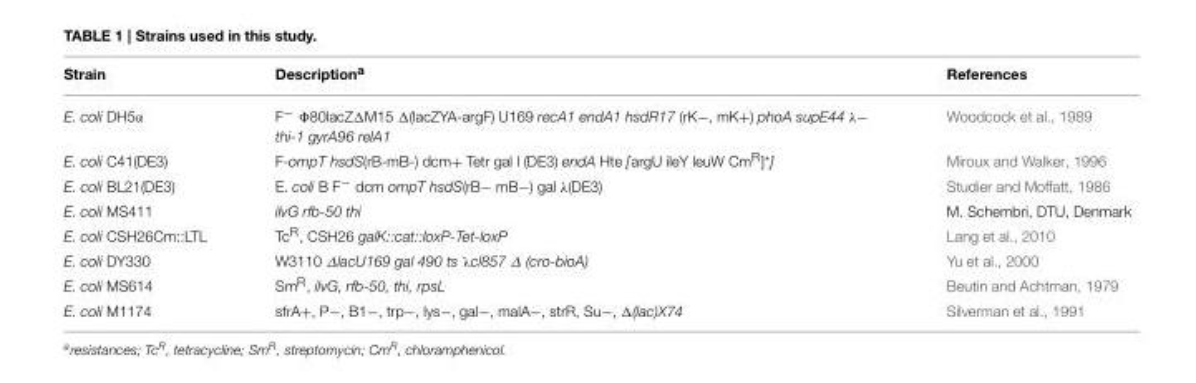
<table><thead><tr><td>Strain</td><td>Description<sup>a</sup></td><td>References</td></tr></thead><tbody><tr><td>E. coli DH5α</td><td>F− Φ80lacZΔM15 Δ(lacZYA-argF) U169 recA1 endA1 hsdR17 (rK−, mK+) phoA supE44 λ− thi-1 gyrA96 relA1</td><td>Woodcock et al., 1989</td></tr><tr><td>E. coli C41(DE3)</td><td>F-ompT hsdS(rB-mB-) dcm+ Tetr gal l (DE3) endA Hte [argU ileY leuW Cm<sup>R</sup>]*]</td><td>Miroux and Walker, 1996</td></tr><tr><td>E. coli BL21(DE3)</td><td>E. coli B F<sup>−</sup> dcm ompT hsdS(rB− mB−) gal λ(DE3)</td><td>Studier and Moffatt, 1986</td></tr><tr><td>E. coli MS411</td><td>ilvG rfb-50 thi</td><td>M. Schembri, DTU, Denmark</td></tr><tr><td>E. coli CSH26Cm::LTL</td><td>Tc<sup>R</sup>, CSH26 galK::cat::loxP-Tet-loxP</td><td>Lang et al., 2010</td></tr><tr><td>E. coli DY330</td><td>W3110 ∆lacU169 gal 490 ts λcl857 ∆ (cro-bioA)</td><td>Yu et al., 2000</td></tr><tr><td>E. coli MS614</td><td>Sm<sup>R</sup>, ilvG, rfb-50, thi, rpsL</td><td>Beutin and Achtman, 1979</td></tr><tr><td>E. coli M1174</td><td>sfrA+, P−, B1−, trp−, lys−, gal−, malA−, strR, Su−, Δ(lac)X74</td><td>Silverman et al., 1991</td></tr></tbody></table>